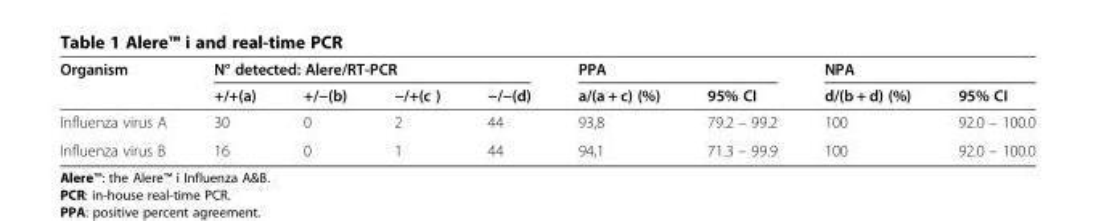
<table><thead><tr><td rowspan="2">Organism</td><td colspan="4">N° detected: Alere/RT-PCR</td><td colspan="2">PPA</td><td colspan="2">NPA</td></tr><tr><td>+/+(a)</td><td>+/−(b)</td><td>−/+(c )</td><td>−/−(d)</td><td>a/(a + c) (%)</td><td>95% CI</td><td>d/(b + d) (%)</td><td>95% CI</td></tr></thead><tbody><tr><td>Influenza virus A</td><td>30</td><td>0</td><td>2</td><td>44</td><td>93,8</td><td>79.2 – 99.2</td><td>100</td><td>92.0 – 100.0</td></tr><tr><td>Influenza virus B</td><td>16</td><td>0</td><td>1</td><td>44</td><td>94,1</td><td>71.3 – 99.9</td><td>100</td><td>92.0 – 100.0</td></tr></tbody></table>